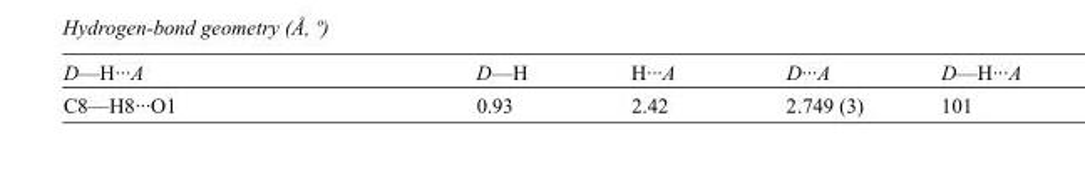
<table><tbody><tr><td>D—H···A</td><td>D—H</td><td>H···A</td><td>D···A</td><td>D—H···A</td></tr><tr><td>C8—H8···O1</td><td>0.93</td><td>2.42</td><td>2.749 (3)</td><td>101</td></tr></tbody></table>